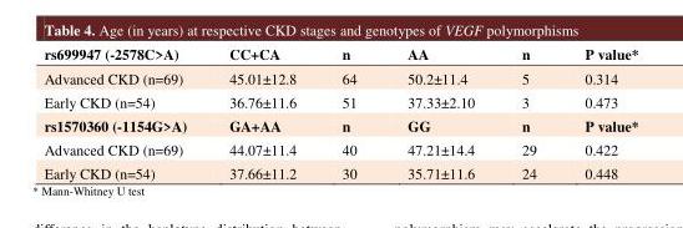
<table><tbody><tr><td>rs699947 (-2578C&gt;A)</td><td>CC+CA</td><td>n</td><td>AA</td><td>n</td><td>P value*</td></tr><tr><td>Advanced CKD (n=69)</td><td>45.01±12.8</td><td>64</td><td>50.2±11.4</td><td>5</td><td>0.314</td></tr><tr><td>Early CKD (n=54)</td><td>36.76±11.6</td><td>51</td><td>37.33±2.10</td><td>3</td><td>0.473</td></tr><tr><td>rs1570360 (-1154G&gt;A)</td><td>GA+AA</td><td>n</td><td>GG</td><td>n</td><td>P value*</td></tr><tr><td>Advanced CKD (n=69)</td><td>44.07±11.4</td><td>40</td><td>47.21±14.4</td><td>29</td><td>0.422</td></tr><tr><td>Early CKD (n=54)</td><td>37.66±11.2</td><td>30</td><td>35.71±11.6</td><td>24</td><td>0.448</td></tr></tbody></table>